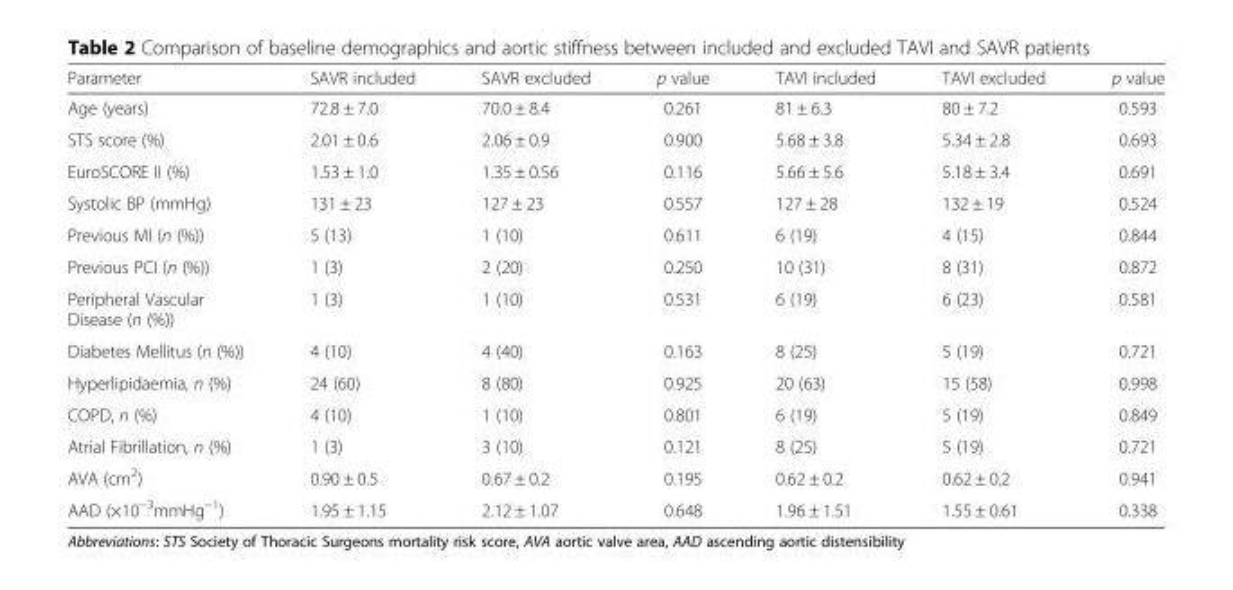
<table><thead><tr><td>Parameter</td><td>SAVR included</td><td>SAVR excluded</td><td>p value</td><td>TAVI included</td><td>TAVI excluded</td><td>p value</td></tr></thead><tbody><tr><td>Age (years)</td><td>72.8 ± 7.0</td><td>70.0 ± 8.4</td><td>0.261</td><td>81 ± 6.3</td><td>80 ± 7.2</td><td>0.593</td></tr><tr><td>STS score (%)</td><td>2.01 ± 0.6</td><td>2.06 ± 0.9</td><td>0.900</td><td>5.68 ± 3.8</td><td>5.34 ± 2.8</td><td>0.693</td></tr><tr><td>EuroSCORE II (%)</td><td>1.53 ± 1.0</td><td>1.35 ± 0.56</td><td>0.116</td><td>5.66 ± 5.6</td><td>5.18 ± 3.4</td><td>0.691</td></tr><tr><td>Systolic BP (mmHg)</td><td>131 ± 23</td><td>127 ± 23</td><td>0.557</td><td>127 ± 28</td><td>132 ± 19</td><td>0.524</td></tr><tr><td>Previous MI (n (%))</td><td>5 (13)</td><td>1 (10)</td><td>0.611</td><td>6 (19)</td><td>4 (15)</td><td>0.844</td></tr><tr><td>Previous PCI (n (%))</td><td>1 (3)</td><td>2 (20)</td><td>0.250</td><td>10 (31)</td><td>8 (31)</td><td>0.872</td></tr><tr><td>Peripheral Vascular Disease (n (%))</td><td>1 (3)</td><td>1 (10)</td><td>0.531</td><td>6 (19)</td><td>6 (23)</td><td>0.581</td></tr><tr><td>Diabetes Mellitus (n (%))</td><td>4 (10)</td><td>4 (40)</td><td>0.163</td><td>8 (25)</td><td>5 (19)</td><td>0.721</td></tr><tr><td>Hyperlipidaemia, n (%)</td><td>24 (60)</td><td>8 (80)</td><td>0.925</td><td>20 (63)</td><td>15 (58)</td><td>0.998</td></tr><tr><td>COPD, n (%)</td><td>4 (10)</td><td>1 (10)</td><td>0.801</td><td>6 (19)</td><td>5 (19)</td><td>0.849</td></tr><tr><td>Atrial Fibrillation, n (%)</td><td>1 (3)</td><td>3 (10)</td><td>0.121</td><td>8 (25)</td><td>5 (19)</td><td>0.721</td></tr><tr><td>AVA (cm<sup>2</sup>)</td><td>0.90 ± 0.5</td><td>0.67 ± 0.2</td><td>0.195</td><td>0.62 ± 0.2</td><td>0.62 ± 0.2</td><td>0.941</td></tr><tr><td>AAD (×10<sup>−3</sup>mmHg<sup>−1</sup>)</td><td>1.95 ± 1.15</td><td>2.12 ± 1.07</td><td>0.648</td><td>1.96 ± 1.51</td><td>1.55 ± 0.61</td><td>0.338</td></tr></tbody></table>